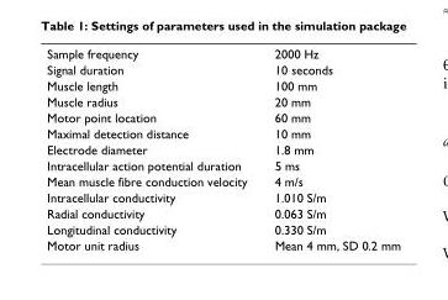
<table><tbody><tr><td>Sample frequency</td><td>2000 Hz</td></tr><tr><td>Signal duration</td><td>10 seconds</td></tr><tr><td>Muscle length</td><td>100 mm</td></tr><tr><td>Muscle radius</td><td>20 mm</td></tr><tr><td>Motor point location</td><td>60 mm</td></tr><tr><td>Maximal detection distance</td><td>10 mm</td></tr><tr><td>Electrode diameter</td><td>1.8 mm</td></tr><tr><td>Intracellular action potential duration</td><td>5 ms</td></tr><tr><td>Mean muscle fibre conduction velocity</td><td>4 m/s</td></tr><tr><td>Intracellular conductivity</td><td>1.010 S/m</td></tr><tr><td>Radial conductivity</td><td>0.063 S/m</td></tr><tr><td>Longitudinal conductivity</td><td>0.330 S/m</td></tr><tr><td>Motor unit radius</td><td>Mean 4 mm, SD 0.2 mm</td></tr></tbody></table>